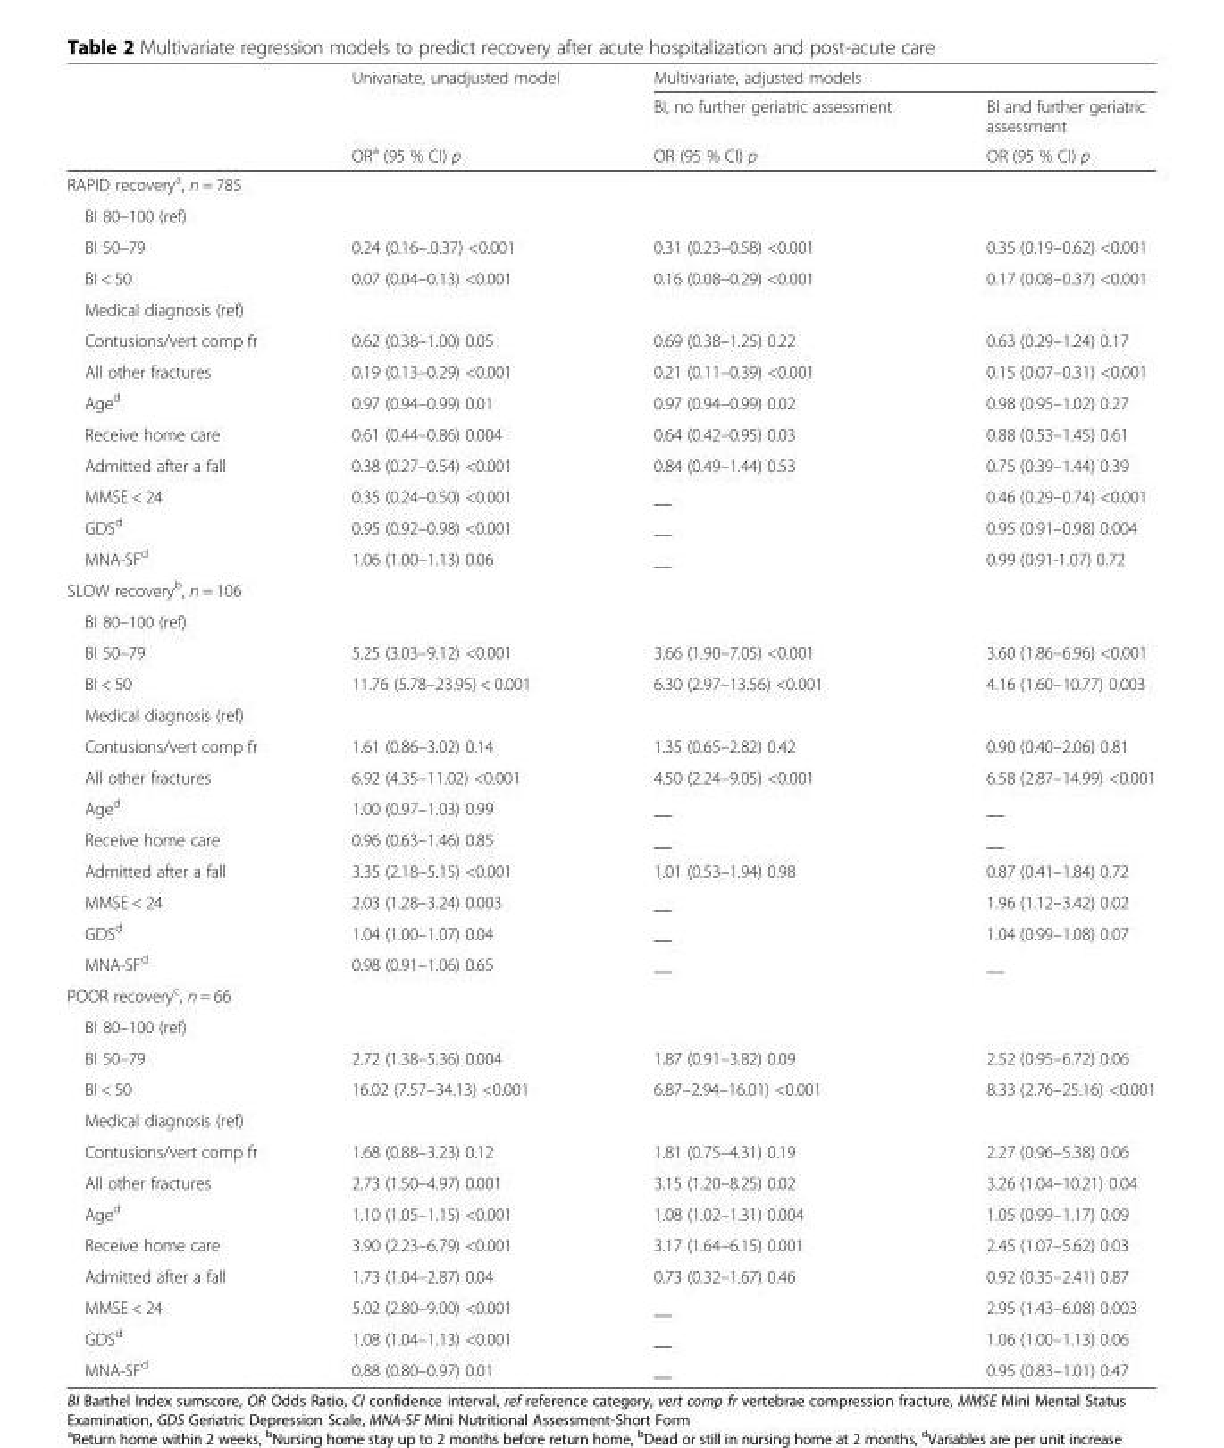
<table><thead><tr><td rowspan="3"></td><td rowspan="3">Univariate, unadjusted model OR<sup>a</sup> (95 % CI) p</td><td colspan="2">Multivariate, adjusted models</td></tr><tr><td rowspan="2">BI, no further geriatric assessment OR (95 % CI) p</td><td rowspan="2">BI and further geriatric assessment OR (95 % CI) p</td></tr><tr></tr></thead><tbody><tr><td colspan="4">RAPID recovery<sup>a</sup>, n = 785</td></tr><tr><td colspan="4">BI 80–100 (ref)</td></tr><tr><td>BI 50–79</td><td>0.24 (0.16–.0.37) &lt;0.001</td><td>0.31 (0.23–0.58) &lt;0.001</td><td>0.35 (0.19–0.62) &lt;0.001</td></tr><tr><td>BI &lt; 50</td><td>0.07 (0.04–0.13) &lt;0.001</td><td>0.16 (0.08–0.29) &lt;0.001</td><td>0.17 (0.08–0.37) &lt;0.001</td></tr><tr><td colspan="4">Medical diagnosis (ref)</td></tr><tr><td>Contusions/vert comp fr</td><td>0.62 (0.38–1.00) 0.05</td><td>0.69 (0.38–1.25) 0.22</td><td>0.63 (0.29–1.24) 0.17</td></tr><tr><td>All other fractures</td><td>0.19 (0.13–0.29) &lt;0.001</td><td>0.21 (0.11–0.39) &lt;0.001</td><td>0.15 (0.07–0.31) &lt;0.001</td></tr><tr><td>Age<sup>d</sup></td><td>0.97 (0.94–0.99) 0.01</td><td>0.97 (0.94–0.99) 0.02</td><td>0.98 (0.95–1.02) 0.27</td></tr><tr><td>Receive home care</td><td>0.61 (0.44–0.86) 0.004</td><td>0.64 (0.42–0.95) 0.03</td><td>0.88 (0.53–1.45) 0.61</td></tr><tr><td>Admitted after a fall</td><td>0.38 (0.27–0.54) &lt;0.001</td><td>0.84 (0.49–1.44) 0.53</td><td>0.75 (0.39–1.44) 0.39</td></tr><tr><td>MMSE &lt; 24</td><td>0.35 (0.24–0.50) &lt;0.001</td><td>__</td><td>0.46 (0.29–0.74) &lt;0.001</td></tr><tr><td>GDS<sup>d</sup></td><td>0.95 (0.92–0.98) &lt;0.001</td><td>__</td><td>0.95 (0.91–0.98) 0.004</td></tr><tr><td>MNA-SF<sup>d</sup></td><td>1.06 (1.00–1.13) 0.06</td><td>__</td><td>0.99 (0.91-1.07) 0.72</td></tr><tr><td colspan="4">SLOW recovery<sup>b</sup>, n = 106</td></tr><tr><td colspan="4">BI 80–100 (ref)</td></tr><tr><td>BI 50–79</td><td>5.25 (3.03–9.12) &lt;0.001</td><td>3.66 (1.90–7.05) &lt;0.001</td><td>3.60 (1.86–6.96) &lt;0.001</td></tr><tr><td>BI &lt; 50</td><td>11.76 (5.78–23.95) &lt; 0.001</td><td>6.30 (2.97–13.56) &lt;0.001</td><td>4.16 (1.60–10.77) 0.003</td></tr><tr><td colspan="4">Medical diagnosis (ref)</td></tr><tr><td>Contusions/vert comp fr</td><td>1.61 (0.86–3.02) 0.14</td><td>1.35 (0.65–2.82) 0.42</td><td>0.90 (0.40–2.06) 0.81</td></tr><tr><td>All other fractures</td><td>6.92 (4.35–11.02) &lt;0.001</td><td>4.50 (2.24–9.05) &lt;0.001</td><td>6.58 (2.87–14.99) &lt;0.001</td></tr><tr><td>Age<sup>d</sup></td><td>1.00 (0.97–1.03) 0.99</td><td>__</td><td>__</td></tr><tr><td>Receive home care</td><td>0.96 (0.63–1.46) 0.85</td><td>__</td><td>__</td></tr><tr><td>Admitted after a fall</td><td>3.35 (2.18–5.15) &lt;0.001</td><td>1.01 (0.53–1.94) 0.98</td><td>0.87 (0.41–1.84) 0.72</td></tr><tr><td>MMSE &lt; 24</td><td>2.03 (1.28–3.24) 0.003</td><td>__</td><td>1.96 (1.12–3.42) 0.02</td></tr><tr><td>GDS<sup>d</sup></td><td>1.04 (1.00–1.07) 0.04</td><td>__</td><td>1.04 (0.99–1.08) 0.07</td></tr><tr><td>MNA-SF<sup>d</sup></td><td>0.98 (0.91–1.06) 0.65</td><td>__</td><td>__</td></tr><tr><td colspan="4">POOR recovery<sup>c</sup>, n = 66</td></tr><tr><td colspan="4">BI 80–100 (ref)</td></tr><tr><td>BI 50–79</td><td>2.72 (1.38–5.36) 0.004</td><td>1.87 (0.91–3.82) 0.09</td><td>2.52 (0.95–6.72) 0.06</td></tr><tr><td>BI &lt; 50</td><td>16.02 (7.57–34.13) &lt;0.001</td><td>6.87–2.94–16.01) &lt;0.001</td><td>8.33 (2.76–25.16) &lt;0.001</td></tr><tr><td colspan="4">Medical diagnosis (ref)</td></tr><tr><td>Contusions/vert comp fr</td><td>1.68 (0.88–3.23) 0.12</td><td>1.81 (0.75–4.31) 0.19</td><td>2.27 (0.96–5.38) 0.06</td></tr><tr><td>All other fractures</td><td>2.73 (1.50–4.97) 0.001</td><td>3.15 (1.20–8.25) 0.02</td><td>3.26 (1.04–10.21) 0.04</td></tr><tr><td>Age<sup>d</sup></td><td>1.10 (1.05–1.15) &lt;0.001</td><td>1.08 (1.02–1.31) 0.004</td><td>1.05 (0.99–1.17) 0.09</td></tr><tr><td>Receive home care</td><td>3.90 (2.23–6.79) &lt;0.001</td><td>3.17 (1.64–6.15) 0.001</td><td>2.45 (1.07–5.62) 0.03</td></tr><tr><td>Admitted after a fall</td><td>1.73 (1.04–2.87) 0.04</td><td>0.73 (0.32–1.67) 0.46</td><td>0.92 (0.35–2.41) 0.87</td></tr><tr><td>MMSE &lt; 24</td><td>5.02 (2.80–9.00) &lt;0.001</td><td>__</td><td>2.95 (1.43–6.08) 0.003</td></tr><tr><td>GDS<sup>d</sup></td><td>1.08 (1.04–1.13) &lt;0.001</td><td>__</td><td>1.06 (1.00–1.13) 0.06</td></tr><tr><td>MNA-SF<sup>d</sup></td><td>0.88 (0.80–0.97) 0.01</td><td>__</td><td>0.95 (0.83–1.01) 0.47</td></tr></tbody></table>